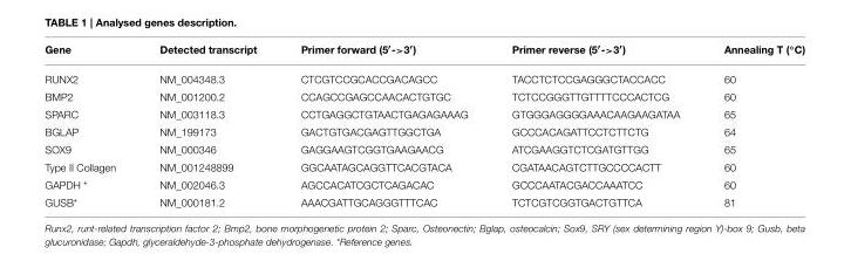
<table><thead><tr><td>Gene</td><td>Detected transcript</td><td>Primer forward (5′-&gt;3′)</td><td>Primer reverse (5′-&gt;3′)</td><td>Annealing T (◦C)</td></tr></thead><tbody><tr><td>RUNX2</td><td>NM_004348.3</td><td>CTCGTCCGCACCGACAGCC</td><td>TACCTCTCCGAGGGCTACCACC</td><td>60</td></tr><tr><td>BMP2</td><td>NM_001200.2</td><td>CCAGCCGAGCCAACACTGTGC</td><td>TCTCCGGGTTGTTTTCCCACTCG</td><td>60</td></tr><tr><td>SPARC</td><td>NM_003118.3</td><td>CCTGAGGCTGTAACTGAGAGAAAG</td><td>GTGGGAGGGGAAACAAGAAGATAA</td><td>65</td></tr><tr><td>BGLAP</td><td>NM_199173</td><td>GACTGTGACGAGTTGGCTGA</td><td>GCCCACAGATTCCTCTTCTG</td><td>64</td></tr><tr><td>SOX9</td><td>NM_000346</td><td>GAGGAAGTCGGTGAAGAACG</td><td>ATCGAAGGTCTCGATGTTGG</td><td>65</td></tr><tr><td>Type II Collagen</td><td>NM_001248899</td><td>GGCAATAGCAGGTTCACGTACA</td><td>CGATAACAGTCTTGCCCCACTT</td><td>60</td></tr><tr><td>GAPDH *</td><td>NM_002046.3</td><td>AGCCACATCGCTCAGACAC</td><td>GCCCAATACGACCAAATCC</td><td>60</td></tr><tr><td>GUSB*</td><td>NM_000181.2</td><td>AAACGATTGCAGGGTTTCAC</td><td>TCTCGTCGGTGACTGTTCA</td><td>81</td></tr></tbody></table>